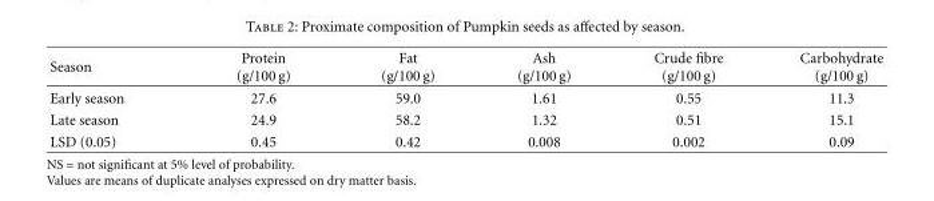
<table><thead><tr><td>Season</td><td>Protein (g/100 g)</td><td>Fat (g/100 g)</td><td>Ash (g/100 g)</td><td>Crude fibre (g/100 g)</td><td>Carbohydrate (g/100 g)</td></tr></thead><tbody><tr><td>Early season</td><td>27.6</td><td>59.0</td><td>1.61</td><td>0.55</td><td>11.3</td></tr><tr><td>Late season</td><td>24.9</td><td>58.2</td><td>1.32</td><td>0.51</td><td>15.1</td></tr><tr><td>LSD (0.05)</td><td>0.45</td><td>0.42</td><td>0.008</td><td>0.002</td><td>0.09</td></tr></tbody></table>